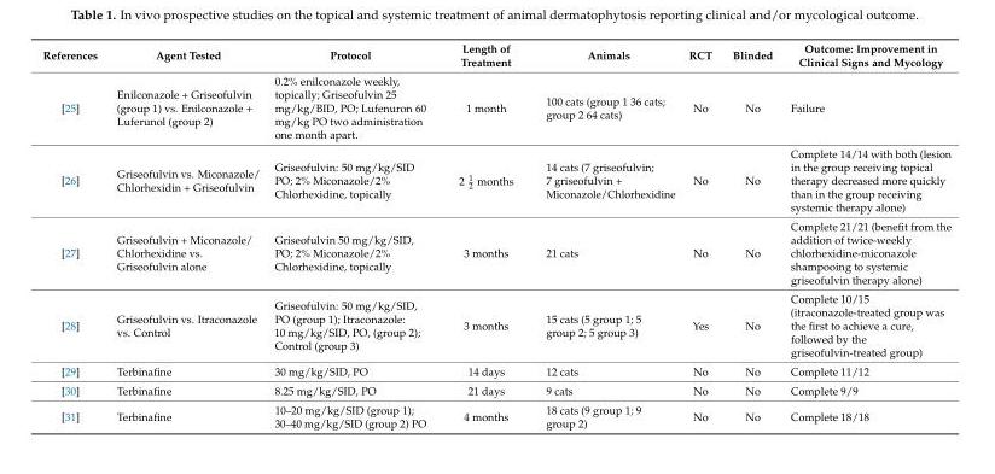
<table><thead><tr><td>References</td><td>Agent Tested</td><td>Protocol</td><td>Length of Treatment</td><td>Animals</td><td>RCT</td><td>Blinded</td><td>Outcome: Improvement in Clinical Signs and Mycology</td></tr></thead><tbody><tr><td>[25]</td><td>Enilconazole + Griseofulvin (group 1) vs. Enilconazole + Luferunol (group 2)</td><td>0.2% enilconazole weekly, topically; Griseofulvin 25 mg/kg/BID, PO; Lufenuron 60 mg/kg PO two administration one month apart.</td><td>1 month</td><td>100 cats (group 1 36 cats; group 2 64 cats)</td><td>No</td><td>No</td><td>Failure</td></tr><tr><td>[26]</td><td>Griseofulvin vs. Miconazole/ Chlorhexidin + Griseofulvin</td><td>Griseofulvin: 50 mg/kg/SID PO; 2% Miconazole/2% Chlorhexidine, topically</td><td>2 1 2 months</td><td>14 cats (7 griseofulvin; 7 griseofulvin + Miconazole/Chlorhexidine</td><td>No</td><td>No</td><td>Complete 14/14 with both (lesion in the group receiving topical therapy decreased more quickly than in the group receiving systemic therapy alone)</td></tr><tr><td>[27]</td><td>Griseofulvin + Miconazole/ Chlorhexidine vs. Griseofulvin alone</td><td>Griseofulvin 50 mg/kg/SID, PO; 2% Miconazole/2% Chlorhexidine, topically</td><td>3 months</td><td>21 cats</td><td>No</td><td>No</td><td>Complete 21/21 (benefit from the addition of twice-weekly chlorhexidine-miconazole shampooing to systemic griseofulvin therapy alone)</td></tr><tr><td>[28]</td><td>Griseofulvin vs. Itraconazole vs. Control</td><td>Griseofulvin: 50 mg/kg/SID, PO (group 1); Itraconazole: 10 mg/kg/SID, PO, (group 2); Control (group 3)</td><td>3 months</td><td>15 cats (5 group 1; 5 group 2; 5 group 3)</td><td>Yes</td><td>No</td><td>Complete 10/15 (itraconazole-treated group was the first to achieve a cure, followed by the griseofulvin-treated group)</td></tr><tr><td>[29]</td><td>Terbinafine</td><td>30 mg/kg/SID, PO</td><td>14 days</td><td>12 cats</td><td>No</td><td>No</td><td>Complete 11/12</td></tr><tr><td>[30]</td><td>Terbinafine</td><td>8.25 mg/kg/SID, PO</td><td>21 days</td><td>9 cats</td><td>No</td><td>No</td><td>Complete 9/9</td></tr><tr><td>[31]</td><td>Terbinafine</td><td>10–20 mg/kg/SID (group 1); 30–40 mg/kg/SID (group 2) PO</td><td>4 months</td><td>18 cats (9 group 1; 9 group 2)</td><td>No</td><td>No</td><td>Complete 18/18</td></tr></tbody></table>